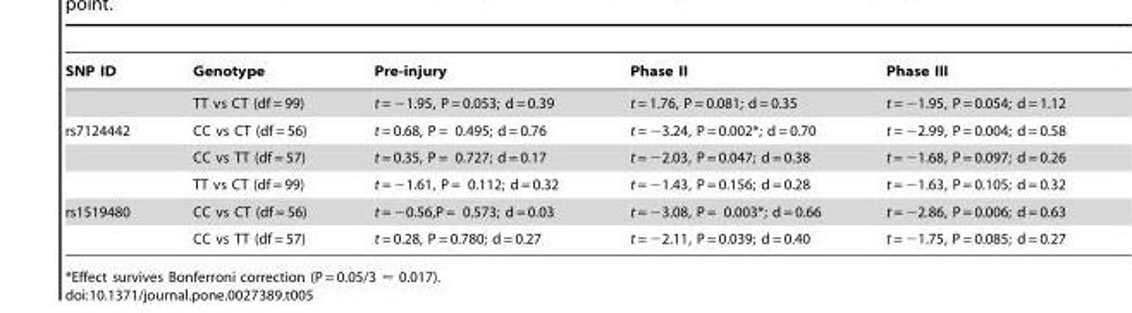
<table><thead><tr><td>SNP ID</td><td>Genotype</td><td>Pre-injury</td><td>Phase II</td><td>Phase III</td></tr></thead><tbody><tr><td></td><td>TT vs CT (df = 99)</td><td>t = −1.95, P = 0.053; d = 0.39</td><td>t = 1.76, P = 0.081; d = 0.35</td><td>t = −1.95, P = 0.054; d = 1.12</td></tr><tr><td rowspan="3">rs7124442</td><td>CC vs CT (df = 56)</td><td>t = 0.68, P = 0.495; d = 0.76</td><td>t = −3.24, P = 0.002*; d = 0.70</td><td>t = −2.99, P = 0.004; d = 0.58</td></tr><tr><td>CC vs TT (df = 57)</td><td>t = 0.35, P = 0.727; d = 0.17</td><td>t = −2.03, P = 0.047; d = 0.38</td><td>t = −1.68, P = 0.097; d = 0.26</td></tr><tr><td>TT vs CT (df = 99)</td><td>t = −1.61, P = 0.112; d = 0.32</td><td>t = −1.43, P = 0.156; d = 0.28</td><td>t = −1.63, P = 0.105; d = 0.32</td></tr><tr><td rowspan="2">rs1519480</td><td>CC vs CT (df = 56)</td><td>t = −0.56,P = 0.573; d = 0.03</td><td>t = −3.08, P = 0.003*; d = 0.66</td><td>t = −2.86, P = 0.006; d = 0.63</td></tr><tr><td>CC vs TT (df = 57)</td><td>t = 0.28, P = 0.780; d = 0.27</td><td>t = −2.11, P = 0.039; d = 0.40</td><td>t = −1.75, P = 0.085; d = 0.27</td></tr></tbody></table>